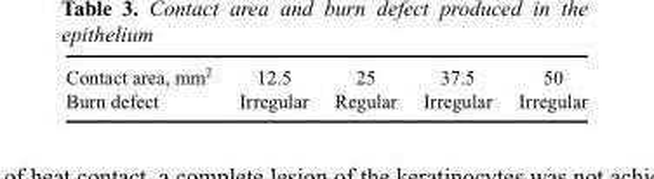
<table><thead><tr><td rowspan="2">Contact area, mm2 Burn defect</td><td rowspan="2">12.5 Irregular</td><td rowspan="2">25 Regular</td><td rowspan="2">37.5 Irregular</td><td rowspan="2">50 Irregular</td></tr><tr></tr></thead><tbody></tbody></table>